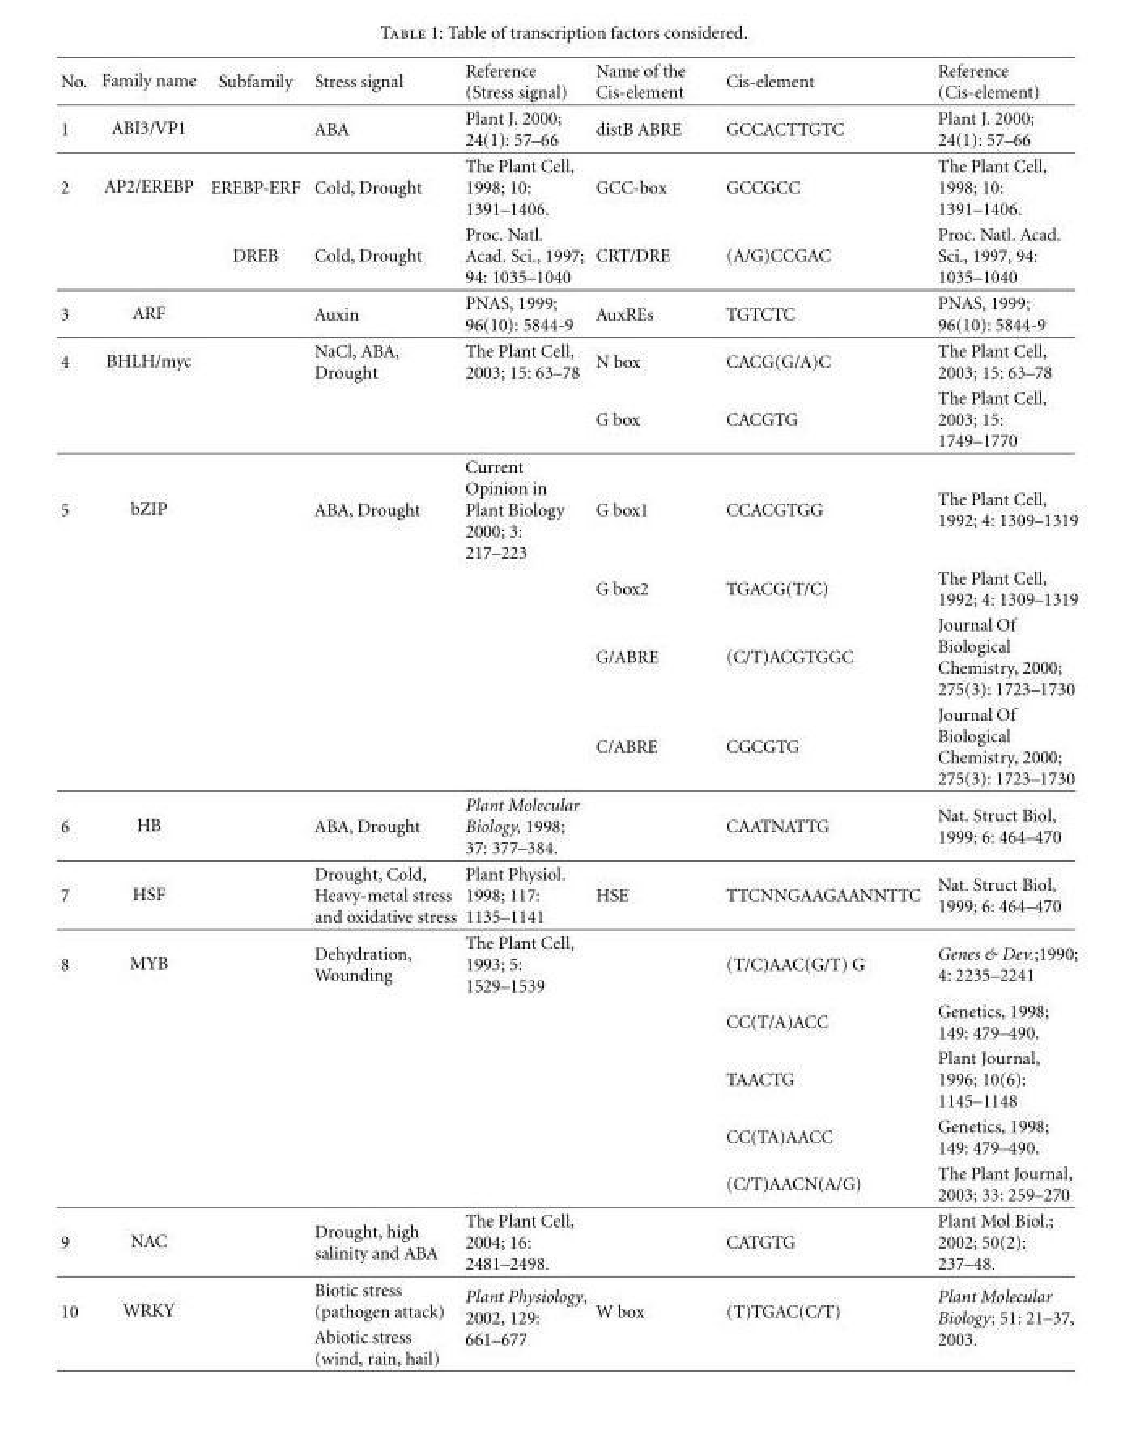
<table><thead><tr><td>No.</td><td>Family name</td><td>Subfamily</td><td>Stress signal</td><td>Reference (Stress signal)</td><td>Name of the Cis-element</td><td>Cis-element</td><td>Reference (Cis-element)</td></tr></thead><tbody><tr><td>1</td><td>ABI3/VP1</td><td></td><td>ABA</td><td>Plant J. 2000; 24(1): 57–66</td><td>distB ABRE</td><td>GCCACTTGTC</td><td>Plant J. 2000; 24(1): 57–66</td></tr><tr><td rowspan="2">2</td><td>AP2/EREBP</td><td>EREBP-ERF</td><td>Cold, Drought</td><td>The Plant Cell, 1998; 10: 1391–1406.</td><td>GCC-box</td><td>GCCGCC</td><td>The Plant Cell, 1998; 10: 1391–1406.</td></tr><tr><td></td><td>DREB</td><td>Cold, Drought</td><td>Proc. Natl. Acad. Sci., 1997; 94: 1035–1040</td><td>CRT/DRE</td><td>(A/G)CCGAC</td><td>Proc. Natl. Acad. Sci., 1997, 94: 1035–1040</td></tr><tr><td>3</td><td>ARF</td><td></td><td>Auxin</td><td>PNAS, 1999; 96(10): 5844-9</td><td>AuxREs</td><td>TGTCTC</td><td>PNAS, 1999; 96(10): 5844-9</td></tr><tr><td rowspan="2">4</td><td>BHLH/myc</td><td></td><td>NaCl, ABA, Drought</td><td>The Plant Cell, 2003; 15: 63–78</td><td>N box</td><td>CACG(G/A)C</td><td>The Plant Cell, 2003; 15: 63–78</td></tr><tr><td></td><td></td><td></td><td></td><td>G box</td><td>CACGTG</td><td>The Plant Cell, 2003; 15: 1749–1770</td></tr><tr><td rowspan="4">5</td><td>bZIP</td><td></td><td>ABA, Drought</td><td>Current Opinion in Plant Biology 2000; 3: 217–223</td><td>G box1</td><td>CCACGTGG</td><td>The Plant Cell, 1992; 4: 1309–1319</td></tr><tr><td></td><td></td><td></td><td></td><td>G box2</td><td>TGACG(T/C)</td><td>The Plant Cell, 1992; 4: 1309–1319</td></tr><tr><td></td><td></td><td></td><td></td><td>G/ABRE</td><td>(C/T)ACGTGGC</td><td>Journal Of Biological Chemistry, 2000; 275(3): 1723–1730</td></tr><tr><td></td><td></td><td></td><td></td><td>C/ABRE</td><td>CGCGTG</td><td>Journal Of Biological Chemistry, 2000; 275(3): 1723–1730</td></tr><tr><td>6</td><td>HB</td><td></td><td>ABA, Drought</td><td>Plant Molecular Biology, 1998; 37: 377–384.</td><td></td><td>CAATNATTG</td><td>Nat. Struct Biol, 1999; 6: 464–470</td></tr><tr><td>7</td><td>HSF</td><td></td><td>Drought, Cold, Heavy-metal stress and oxidative stress</td><td>Plant Physiol. 1998; 117: 1135–1141</td><td>HSE</td><td>TTCNNGAAGAANNTTC</td><td>Nat. Struct Biol, 1999; 6: 464–470</td></tr><tr><td rowspan="5">8</td><td>MYB</td><td></td><td>Dehydration, Wounding</td><td>The Plant Cell, 1993; 5: 1529–1539</td><td></td><td>(T/C)AAC(G/T) G</td><td>Genes &amp; Dev.;1990; 4: 2235–2241</td></tr><tr><td></td><td></td><td></td><td></td><td></td><td>CC(T/A)ACC</td><td>Genetics, 1998; 149: 479–490.</td></tr><tr><td></td><td></td><td></td><td></td><td></td><td>TAACTG</td><td>Plant Journal, 1996; 10(6): 1145–1148</td></tr><tr><td></td><td></td><td></td><td></td><td></td><td>CC(TA)AACC</td><td>Genetics, 1998; 149: 479–490.</td></tr><tr><td></td><td></td><td></td><td></td><td></td><td>(C/T)AACN(A/G)</td><td>The Plant Journal, 2003; 33: 259–270</td></tr><tr><td>9</td><td>NAC</td><td></td><td>Drought, high salinity and ABA</td><td>The Plant Cell, 2004; 16: 2481–2498.</td><td></td><td>CATGTG</td><td>Plant Mol Biol.; 2002; 50(2): 237–48.</td></tr><tr><td rowspan="2">10</td><td rowspan="2">WRKY</td><td></td><td>Biotic stress (pathogen attack)</td><td rowspan="2">Plant Physiology, 2002, 129: 661–677</td><td rowspan="2">W box</td><td rowspan="2">(T)TGAC(C/T)</td><td rowspan="2">Plant Molecular Biology; 51: 21–37, 2003.</td></tr><tr><td></td><td>Abiotic stress (wind, rain, hail)</td></tr></tbody></table>